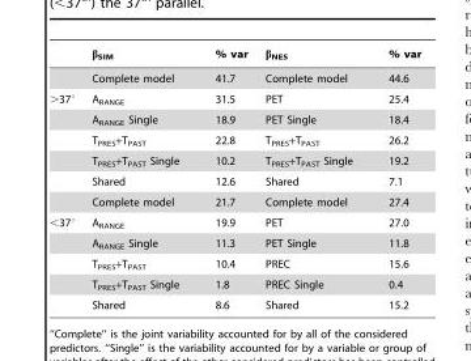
<table><thead><tr><td></td><td>β<sub>SIM</sub></td><td>% var</td><td>β<sub>NES</sub></td><td>% var</td></tr></thead><tbody><tr><td></td><td>Complete model</td><td>41.7</td><td>Complete model</td><td>44.6</td></tr><tr><td rowspan="6">&gt;37°</td><td>A<sub>RANGE</sub></td><td>31.5</td><td>PET</td><td>25.4</td></tr><tr><td>A<sub>RANGE</sub> Single</td><td>18.9</td><td>PET Single</td><td>18.4</td></tr><tr><td>T<sub>PRES</sub>+T<sub>PAST</sub></td><td>22.8</td><td>T<sub>PRES</sub>+T<sub>PAST</sub></td><td>26.2</td></tr><tr><td>T<sub>PRES</sub>+T<sub>PAST</sub> Single</td><td>10.2</td><td>T<sub>PRES</sub>+T<sub>PAST</sub> Single</td><td>19.2</td></tr><tr><td>Shared</td><td>12.6</td><td>Shared</td><td>7.1</td></tr><tr><td>Complete model</td><td>21.7</td><td>Complete model</td><td>27.4</td></tr><tr><td rowspan="5">&lt;37°</td><td>A<sub>RANGE</sub></td><td>19.9</td><td>PET</td><td>27.0</td></tr><tr><td>A<sub>RANGE</sub> Single</td><td>11.3</td><td>PET Single</td><td>11.8</td></tr><tr><td>T<sub>PRES</sub>+T<sub>PAST</sub></td><td>10.4</td><td>PREC</td><td>15.6</td></tr><tr><td>T<sub>PRES</sub>+T<sub>PAST</sub> Single</td><td>1.8</td><td>PREC Single</td><td>0.4</td></tr><tr><td>Shared</td><td>8.6</td><td>Shared</td><td>15.2</td></tr></tbody></table>